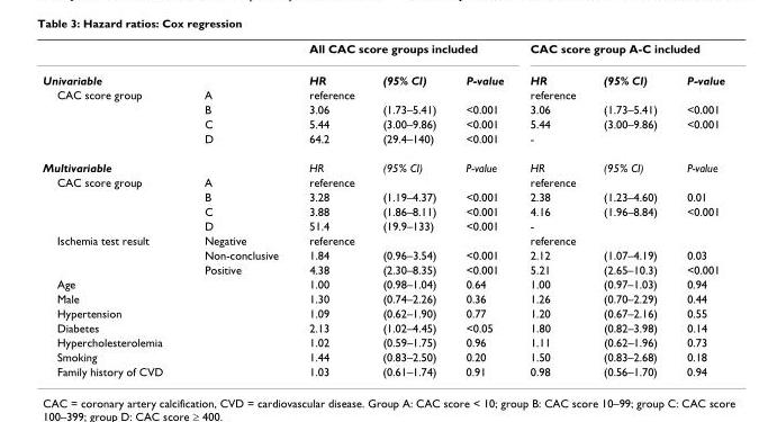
<table><thead><tr><td rowspan="2">Univariable</td><td rowspan="2"></td><td colspan="3">All CAC score groups included</td><td colspan="3">CAC score group A-C included</td></tr><tr><td>HR</td><td>(95% CI)</td><td>P-value</td><td>HR</td><td>(95% CI)</td><td>P-value</td></tr></thead><tbody><tr><td rowspan="4">CAC score group</td><td>A</td><td>reference</td><td></td><td></td><td>reference</td><td></td><td></td></tr><tr><td>B</td><td>3.06</td><td>(1.73–5.41)</td><td>&lt;0.001</td><td>3.06</td><td>(1.73–5.41)</td><td>&lt;0.001</td></tr><tr><td>C</td><td>5.44</td><td>(3.00–9.86)</td><td>&lt;0.001</td><td>5.44</td><td>(3.00–9.86)</td><td>&lt;0.001</td></tr><tr><td>D</td><td>64.2</td><td>(29.4–140)</td><td>&lt;0.001</td><td>-</td><td></td><td></td></tr><tr><td>Multivariable</td><td></td><td>HR</td><td>(95% CI)</td><td>P-value</td><td>HR</td><td>(95% CI)</td><td>P-value</td></tr><tr><td rowspan="4">CAC score group</td><td>A</td><td>reference</td><td></td><td></td><td>reference</td><td></td><td></td></tr><tr><td>B</td><td>3.28</td><td>(1.19–4.37)</td><td>&lt;0.001</td><td>2.38</td><td>(1.23–4.60)</td><td>0.01</td></tr><tr><td>C</td><td>3.88</td><td>(1.86–8.11)</td><td>&lt;0.001</td><td>4.16</td><td>(1.96–8.84)</td><td>&lt;0.001</td></tr><tr><td>D</td><td>51.4</td><td>(19.9–133)</td><td>&lt;0.001</td><td>-</td><td></td><td></td></tr><tr><td rowspan="3">Ischemia test result</td><td>Negative</td><td>reference</td><td></td><td></td><td>reference</td><td></td><td></td></tr><tr><td>Non-conclusive</td><td>1.84</td><td>(0.96–3.54)</td><td>&lt;0.001</td><td>2.12</td><td>(1.07–4.19)</td><td>0.03</td></tr><tr><td>Positive</td><td>4.38</td><td>(2.30–8.35)</td><td>&lt;0.001</td><td>5.21</td><td>(2.65–10.3)</td><td>&lt;0.001</td></tr><tr><td>Age</td><td></td><td>1.00</td><td>(0.98–1.04)</td><td>0.64</td><td>1.00</td><td>(0.97–1.03)</td><td>0.94</td></tr><tr><td>Male</td><td></td><td>1.30</td><td>(0.74–2.26)</td><td>0.36</td><td>1.26</td><td>(0.70–2.29)</td><td>0.44</td></tr><tr><td>Hypertension</td><td></td><td>1.09</td><td>(0.62–1.90)</td><td>0.77</td><td>1.20</td><td>(0.67–2.16)</td><td>0.55</td></tr><tr><td>Diabetes</td><td></td><td>2.13</td><td>(1.02–4.45)</td><td>&lt;0.05</td><td>1.80</td><td>(0.82–3.98)</td><td>0.14</td></tr><tr><td>Hypercholesterolemia</td><td></td><td>1.02</td><td>(0.59–1.75)</td><td>0.96</td><td>1.11</td><td>(0.62–1.96)</td><td>0.73</td></tr><tr><td>Smoking</td><td></td><td>1.44</td><td>(0.83–2.50)</td><td>0.20</td><td>1.50</td><td>(0.83–2.68)</td><td>0.18</td></tr><tr><td>Family history of CVD</td><td></td><td>1.03</td><td>(0.61–1.74)</td><td>0.91</td><td>0.98</td><td>(0.56–1.70)</td><td>0.94</td></tr></tbody></table>